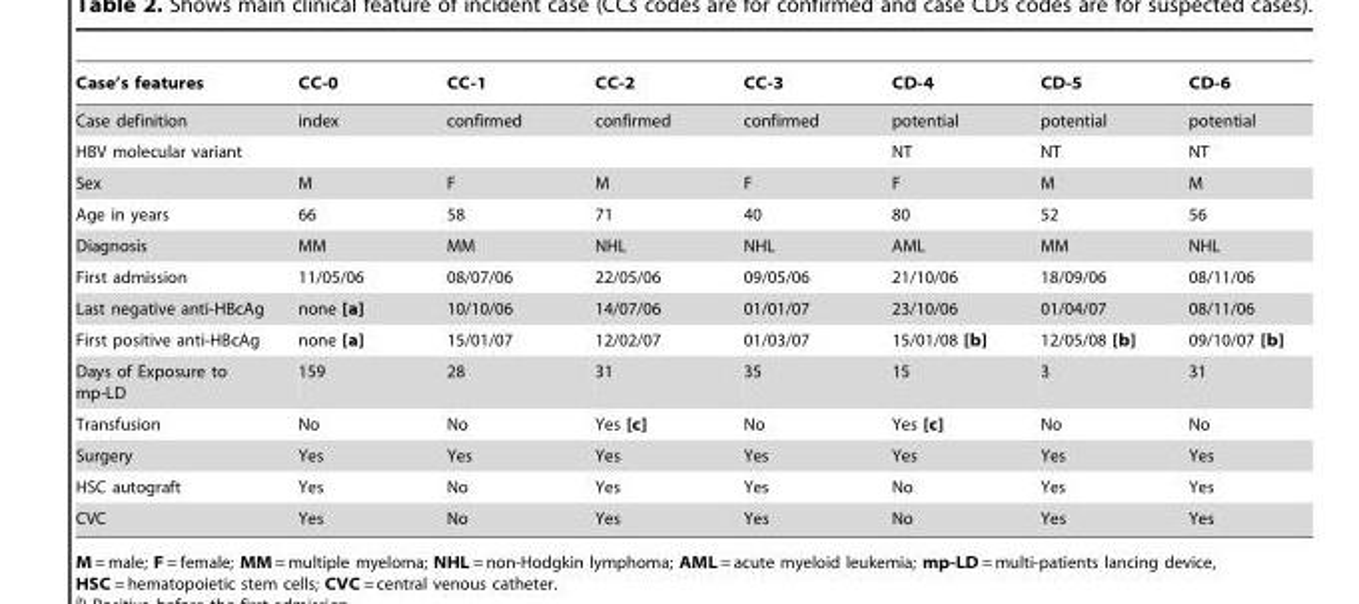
<table><thead><tr><td>Case’s features</td><td>CC-0</td><td>CC-1</td><td>CC-2</td><td>CC-3</td><td>CD-4</td><td>CD-5</td><td>CD-6</td></tr></thead><tbody><tr><td>Case definition</td><td>index</td><td>confirmed</td><td>confirmed</td><td>confirmed</td><td>potential</td><td>potential</td><td>potential</td></tr><tr><td>HBV molecular variant</td><td></td><td></td><td></td><td></td><td>NT</td><td>NT</td><td>NT</td></tr><tr><td>Sex</td><td>M</td><td>F</td><td>M</td><td>F</td><td>F</td><td>M</td><td>M</td></tr><tr><td>Age in years</td><td>66</td><td>58</td><td>71</td><td>40</td><td>80</td><td>52</td><td>56</td></tr><tr><td>Diagnosis</td><td>MM</td><td>MM</td><td>NHL</td><td>NHL</td><td>AML</td><td>MM</td><td>NHL</td></tr><tr><td>First admission</td><td>11/05/06</td><td>08/07/06</td><td>22/05/06</td><td>09/05/06</td><td>21/10/06</td><td>18/09/06</td><td>08/11/06</td></tr><tr><td>Last negative anti-HBcAg</td><td>none [a]</td><td>10/10/06</td><td>14/07/06</td><td>01/01/07</td><td>23/10/06</td><td>01/04/07</td><td>08/11/06</td></tr><tr><td>First positive anti-HBcAg</td><td>none [a]</td><td>15/01/07</td><td>12/02/07</td><td>01/03/07</td><td>15/01/08 [b]</td><td>12/05/08 [b]</td><td>09/10/07 [b]</td></tr><tr><td>Days of Exposure to mp-LD</td><td>159</td><td>28</td><td>31</td><td>35</td><td>15</td><td>3</td><td>31</td></tr><tr><td>Transfusion</td><td>No</td><td>No</td><td>Yes [c]</td><td>No</td><td>Yes [c]</td><td>No</td><td>No</td></tr><tr><td>Surgery</td><td>Yes</td><td>Yes</td><td>Yes</td><td>Yes</td><td>Yes</td><td>Yes</td><td>Yes</td></tr><tr><td>HSC autograft</td><td>Yes</td><td>No</td><td>Yes</td><td>Yes</td><td>No</td><td>Yes</td><td>Yes</td></tr><tr><td>CVC</td><td>Yes</td><td>No</td><td>Yes</td><td>Yes</td><td>No</td><td>Yes</td><td>Yes</td></tr></tbody></table>